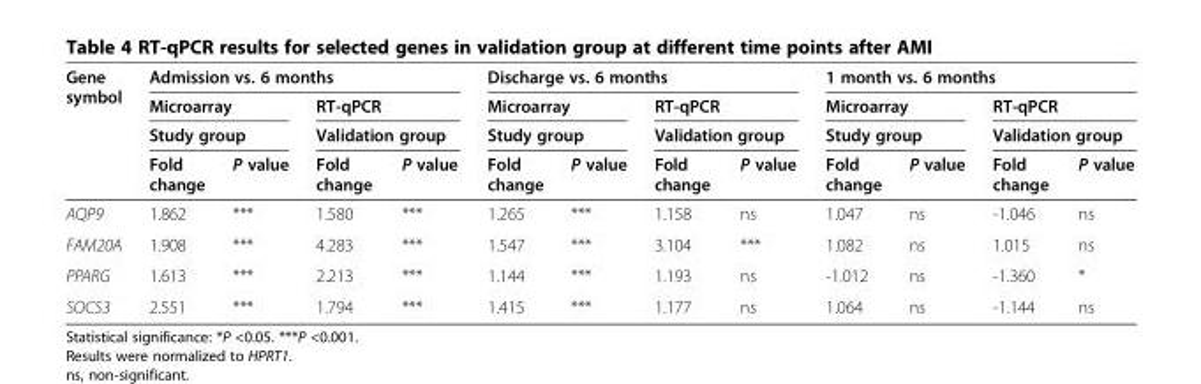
<table><thead><tr><td rowspan="4">Gene symbol</td><td colspan="4">Admission vs. 6 months</td><td colspan="4">Discharge vs. 6 months</td><td colspan="4">1 month vs. 6 months</td></tr><tr><td rowspan="2" colspan="2">Microarray Study group</td><td rowspan="2" colspan="2">RT-qPCR Validation group</td><td rowspan="2" colspan="2">Microarray Study group</td><td rowspan="2" colspan="2">RT-qPCR Validation group</td><td rowspan="2" colspan="2">Microarray Study group</td><td rowspan="2" colspan="2">RT-qPCR Validation group</td></tr><tr></tr><tr><td>Fold change</td><td>P value</td><td>Fold change</td><td>P value</td><td>Fold change</td><td>P value</td><td>Fold change</td><td>P value</td><td>Fold change</td><td>P value</td><td>Fold change</td><td>P value</td></tr></thead><tbody><tr><td>AQP9</td><td>1.862</td><td>***</td><td>1.580</td><td>***</td><td>1.265</td><td>***</td><td>1.158</td><td>ns</td><td>1.047</td><td>ns</td><td>-1.046</td><td>ns</td></tr><tr><td>FAM20A</td><td>1.908</td><td>***</td><td>4.283</td><td>***</td><td>1.547</td><td>***</td><td>3.104</td><td>***</td><td>1.082</td><td>ns</td><td>1.015</td><td>ns</td></tr><tr><td>PPARG</td><td>1.613</td><td>***</td><td>2.213</td><td>***</td><td>1.144</td><td>***</td><td>1.193</td><td>ns</td><td>-1.012</td><td>ns</td><td>-1.360</td><td>*</td></tr><tr><td>SOCS3</td><td>2.551</td><td>***</td><td>1.794</td><td>***</td><td>1.415</td><td>***</td><td>1.177</td><td>ns</td><td>1.064</td><td>ns</td><td>-1.144</td><td>ns</td></tr></tbody></table>